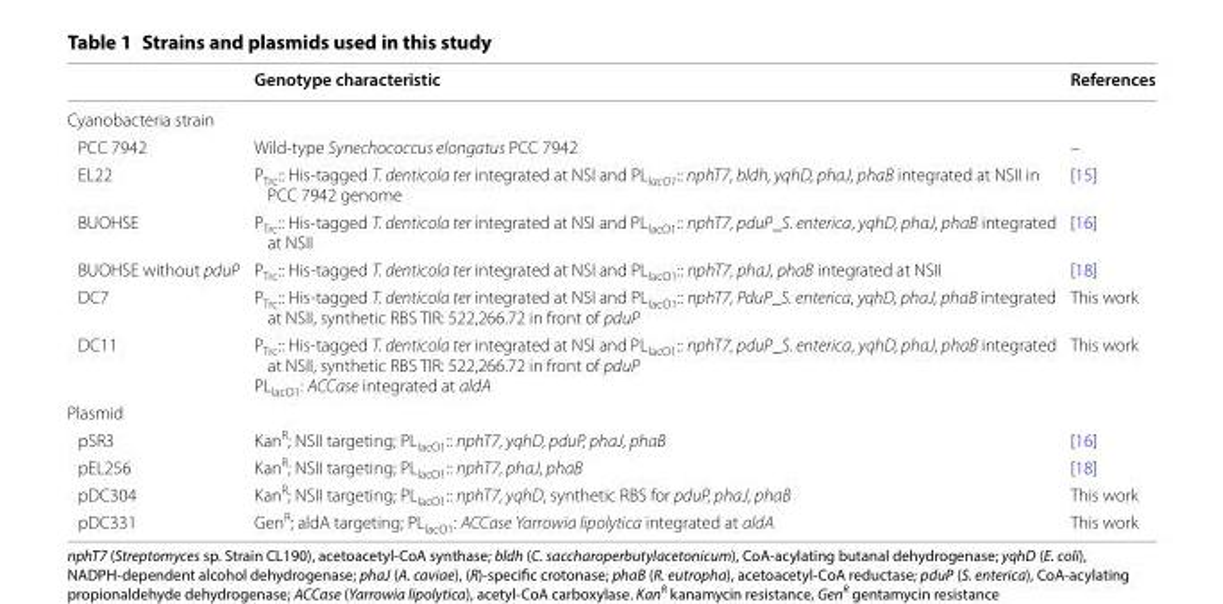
<table><thead><tr><td></td><td>Genotype characteristic</td><td>References</td></tr></thead><tbody><tr><td colspan="3">Cyanobacteria strain</td></tr><tr><td>PCC 7942</td><td>Wild-type Synechococcus elongatus PCC 7942</td><td>–</td></tr><tr><td>EL22</td><td>P<sub>Trc</sub>:: His-tagged T. denticola ter integrated at NSI and PL<sub>lacO1</sub>:: nphT7, bldh, yqhD, phaJ, phaB integrated at NSII in PCC 7942 genome</td><td>[15]</td></tr><tr><td>BUOHSE</td><td>P<sub>Trc</sub>:: His-tagged T. denticola ter integrated at NSI and PL<sub>lacO1</sub>:: nphT7, pduP_S. enterica, yqhD, phaJ, phaB integrated at NSII</td><td>[16]</td></tr><tr><td>BUOHSE without pduP</td><td>P<sub>Trc</sub>:: His-tagged T. denticola ter integrated at NSI and PL<sub>lacO1</sub>:: nphT7, phaJ, phaB integrated at NSII</td><td>[18]</td></tr><tr><td>DC7</td><td>P<sub>Trc</sub>:: His-tagged T. denticola ter integrated at NSI and PL<sub>lacO1</sub>:: nphT7, PduP_S. enterica, yqhD, phaJ, phaB integrated at NSII, synthetic RBS TIR: 522,266.72 in front of pduP</td><td>This work</td></tr><tr><td>DC11</td><td>P<sub>Trc</sub>:: His-tagged T. denticola ter integrated at NSI and PL<sub>lacO1</sub>:: nphT7, pduP_S. enterica, yqhD, phaJ, phaB integrated at NSII, synthetic RBS TIR: 522,266.72 in front of pduP PL<sub>lacO1</sub>: ACCase integrated at aldA</td><td>This work</td></tr><tr><td colspan="3">Plasmid</td></tr><tr><td>pSR3</td><td>Kan<sup>R</sup>; NSII targeting; PL<sub>lacO1</sub>:: nphT7, yqhD, pduP, phaJ, phaB</td><td>[16]</td></tr><tr><td>pEL256</td><td>Kan<sup>R</sup>; NSII targeting; PL<sub>lacO1</sub>:: nphT7, phaJ, phaB</td><td>[18]</td></tr><tr><td>pDC304</td><td>Kan<sup>R</sup>; NSII targeting; PL<sub>lacO1</sub>:: nphT7, yqhD, synthetic RBS for pduP, phaJ, phaB</td><td>This work</td></tr><tr><td>pDC331</td><td>Gen<sup>R</sup>; aldA targeting; PL<sub>lacO1</sub>: ACCase Yarrowia lipolytica integrated at aldA</td><td>This work</td></tr></tbody></table>